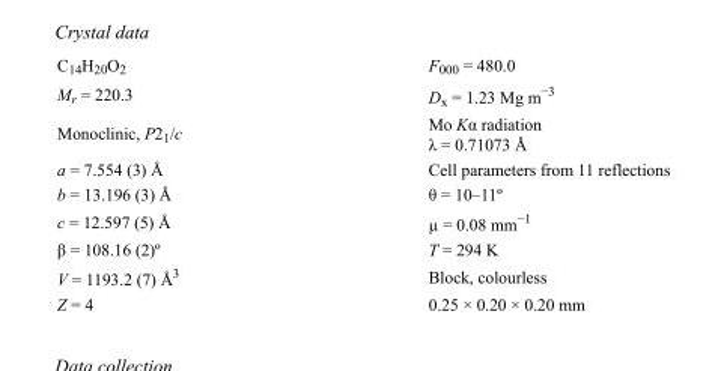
<table><tbody><tr><td>C<sub>14</sub>H<sub>20</sub>O<sub>2</sub></td><td>F<sub>000</sub> = 480.0</td></tr><tr><td>M<sub>r</sub> = 220.3</td><td>D<sub>x</sub> = 1.23 Mg m<sup>−3</sup></td></tr><tr><td>Monoclinic, P2<sub>1</sub>/c</td><td>Mo Kα radiation λ = 0.71073 Å</td></tr><tr><td>a = 7.554 (3) Å</td><td>Cell parameters from 11 reflections</td></tr><tr><td>b = 13.196 (3) Å</td><td>θ = 10–11º</td></tr><tr><td>c = 12.597 (5) Å</td><td>µ = 0.08 mm<sup>−1</sup></td></tr><tr><td>β = 108.16 (2)º</td><td>T = 294 K</td></tr><tr><td>V = 1193.2 (7) Å<sup>3</sup></td><td>Block, colourless</td></tr><tr><td>Z = 4</td><td>0.25 × 0.20 × 0.20 mm</td></tr></tbody></table>